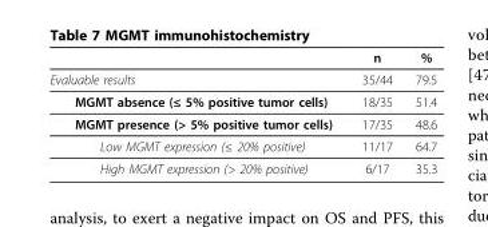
<table><thead><tr><td></td><td>n</td><td>%</td></tr></thead><tbody><tr><td>Evaluable results</td><td>35/44</td><td>79.5</td></tr><tr><td>MGMT absence (≤ 5% positive tumor cells)</td><td>18/35</td><td>51.4</td></tr><tr><td>MGMT presence (&gt; 5% positive tumor cells)</td><td>17/35</td><td>48.6</td></tr><tr><td>Low MGMT expression (≤ 20% positive)</td><td>11/17</td><td>64.7</td></tr><tr><td>High MGMT expression (&gt; 20% positive)</td><td>6/17</td><td>35.3</td></tr></tbody></table>